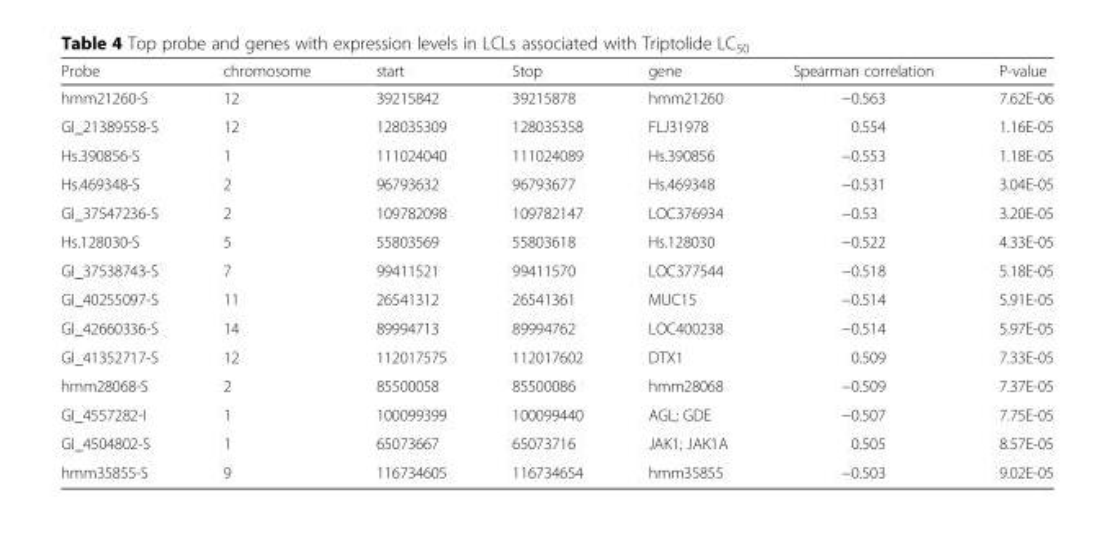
<table><thead><tr><td>Probe</td><td>chromosome</td><td>start</td><td>Stop</td><td>gene</td><td>Spearman correlation</td><td>P-value</td></tr></thead><tbody><tr><td>hmm21260-S</td><td>12</td><td>39215842</td><td>39215878</td><td>hmm21260</td><td>−0.563</td><td>7.62E-06</td></tr><tr><td>GI_21389558-S</td><td>12</td><td>128035309</td><td>128035358</td><td>FLJ31978</td><td>0.554</td><td>1.16E-05</td></tr><tr><td>Hs.390856-S</td><td>1</td><td>111024040</td><td>111024089</td><td>Hs.390856</td><td>−0.553</td><td>1.18E-05</td></tr><tr><td>Hs.469348-S</td><td>2</td><td>96793632</td><td>96793677</td><td>Hs.469348</td><td>−0.531</td><td>3.04E-05</td></tr><tr><td>GI_37547236-S</td><td>2</td><td>109782098</td><td>109782147</td><td>LOC376934</td><td>−0.53</td><td>3.20E-05</td></tr><tr><td>Hs.128030-S</td><td>5</td><td>55803569</td><td>55803618</td><td>Hs.128030</td><td>−0.522</td><td>4.33E-05</td></tr><tr><td>GI_37538743-S</td><td>7</td><td>99411521</td><td>99411570</td><td>LOC377544</td><td>−0.518</td><td>5.18E-05</td></tr><tr><td>GI_40255097-S</td><td>11</td><td>26541312</td><td>26541361</td><td>MUC15</td><td>−0.514</td><td>5.91E-05</td></tr><tr><td>GI_42660336-S</td><td>14</td><td>89994713</td><td>89994762</td><td>LOC400238</td><td>−0.514</td><td>5.97E-05</td></tr><tr><td>GI_41352717-S</td><td>12</td><td>112017575</td><td>112017602</td><td>DTX1</td><td>0.509</td><td>7.33E-05</td></tr><tr><td>hmm28068-S</td><td>2</td><td>85500058</td><td>85500086</td><td>hmm28068</td><td>−0.509</td><td>7.37E-05</td></tr><tr><td>GI_4557282-I</td><td>1</td><td>100099399</td><td>100099440</td><td>AGL; GDE</td><td>−0.507</td><td>7.75E-05</td></tr><tr><td>GI_4504802-S</td><td>1</td><td>65073667</td><td>65073716</td><td>JAK1; JAK1A</td><td>0.505</td><td>8.57E-05</td></tr><tr><td>hmm35855-S</td><td>9</td><td>116734605</td><td>116734654</td><td>hmm35855</td><td>−0.503</td><td>9.02E-05</td></tr></tbody></table>